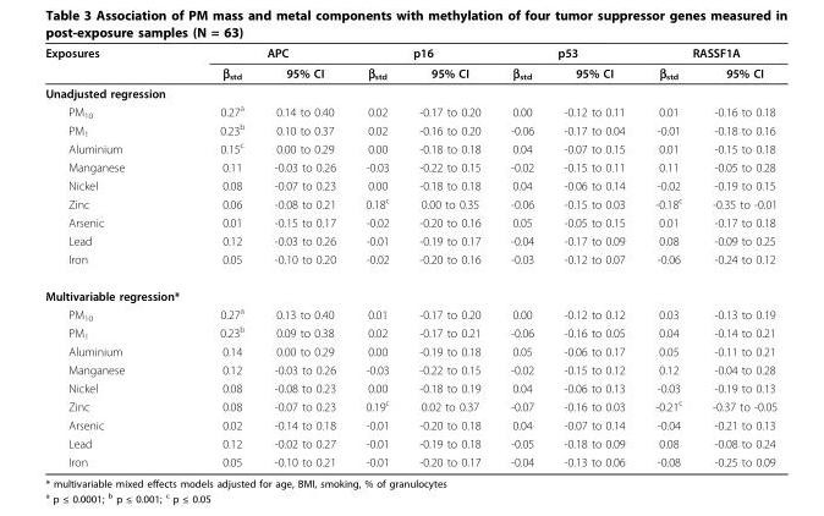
<table><thead><tr><td rowspan="2">Exposures</td><td colspan="2">APC</td><td colspan="2">p16</td><td colspan="2">p53</td><td colspan="2">RASSF1A</td></tr><tr><td>β<sub>std</sub></td><td>95% CI</td><td>β<sub>std</sub></td><td>95% CI</td><td>β<sub>std</sub></td><td>95% CI</td><td>β<sub>std</sub></td><td>95% CI</td></tr></thead><tbody><tr><td colspan="9">Unadjusted regression</td></tr><tr><td>PM<sub>10</sub></td><td>0.27<sup>a</sup></td><td>0.14 to 0.40</td><td>0.02</td><td>-0.17 to 0.20</td><td>0.00</td><td>-0.12 to 0.11</td><td>0.01</td><td>-0.16 to 0.18</td></tr><tr><td>PM<sub>1</sub></td><td>0.23<sup>b</sup></td><td>0.10 to 0.37</td><td>0.02</td><td>-0.16 to 0.20</td><td>-0.06</td><td>-0.17 to 0.04</td><td>-0.01</td><td>-0.18 to 0.16</td></tr><tr><td>Aluminium</td><td>0.15<sup>c</sup></td><td>0.00 to 0.29</td><td>0.00</td><td>-0.18 to 0.18</td><td>0.04</td><td>-0.07 to 0.15</td><td>0.01</td><td>-0.15 to 0.18</td></tr><tr><td>Manganese</td><td>0.11</td><td>-0.03 to 0.26</td><td>-0.03</td><td>-0.22 to 0.15</td><td>-0.02</td><td>-0.15 to 0.11</td><td>0.11</td><td>-0.05 to 0.28</td></tr><tr><td>Nickel</td><td>0.08</td><td>-0.07 to 0.23</td><td>0.00</td><td>-0.18 to 0.18</td><td>0.04</td><td>-0.06 to 0.14</td><td>-0.02</td><td>-0.19 to 0.15</td></tr><tr><td>Zinc</td><td>0.06</td><td>-0.08 to 0.21</td><td>0.18<sup>c</sup></td><td>0.00 to 0.35</td><td>-0.06</td><td>-0.15 to 0.03</td><td>-0.18<sup>c</sup></td><td>-0.35 to -0.01</td></tr><tr><td>Arsenic</td><td>0.01</td><td>-0.15 to 0.17</td><td>-0.02</td><td>-0.20 to 0.16</td><td>0.05</td><td>-0.05 to 0.15</td><td>0.01</td><td>-0.17 to 0.18</td></tr><tr><td>Lead</td><td>0.12</td><td>-0.03 to 0.26</td><td>-0.01</td><td>-0.19 to 0.17</td><td>-0.04</td><td>-0.17 to 0.09</td><td>0.08</td><td>-0.09 to 0.25</td></tr><tr><td>Iron</td><td>0.05</td><td>-0.10 to 0.20</td><td>-0.02</td><td>-0.20 to 0.16</td><td>-0.03</td><td>-0.12 to 0.07</td><td>-0.06</td><td>-0.24 to 0.12</td></tr><tr><td colspan="9">Multivariable regression*</td></tr><tr><td>PM<sub>10</sub></td><td>0.27<sup>a</sup></td><td>0.13 to 0.40</td><td>0.01</td><td>-0.17 to 0.20</td><td>0.00</td><td>-0.12 to 0.12</td><td>0.03</td><td>-0.13 to 0.19</td></tr><tr><td>PM<sub>1</sub></td><td>0.23<sup>b</sup></td><td>0.09 to 0.38</td><td>0.02</td><td>-0.17 to 0.21</td><td>-0.06</td><td>-0.16 to 0.05</td><td>0.04</td><td>-0.14 to 0.21</td></tr><tr><td>Aluminium</td><td>0.14</td><td>0.00 to 0.29</td><td>0.00</td><td>-0.19 to 0.18</td><td>0.05</td><td>-0.06 to 0.17</td><td>0.05</td><td>-0.11 to 0.21</td></tr><tr><td>Manganese</td><td>0.12</td><td>-0.03 to 0.26</td><td>-0.03</td><td>-0.22 to 0.15</td><td>-0.02</td><td>-0.15 to 0.12</td><td>0.12</td><td>-0.04 to 0.28</td></tr><tr><td>Nickel</td><td>0.08</td><td>-0.08 to 0.23</td><td>0.00</td><td>-0.18 to 0.19</td><td>0.04</td><td>-0.06 to 0.13</td><td>-0.03</td><td>-0.19 to 0.13</td></tr><tr><td>Zinc</td><td>0.08</td><td>-0.07 to 0.23</td><td>0.19<sup>c</sup></td><td>0.02 to 0.37</td><td>-0.07</td><td>-0.16 to 0.03</td><td>-0.21<sup>c</sup></td><td>-0.37 to -0.05</td></tr><tr><td>Arsenic</td><td>0.02</td><td>-0.14 to 0.18</td><td>-0.01</td><td>-0.20 to 0.18</td><td>0.04</td><td>-0.07 to 0.14</td><td>-0.04</td><td>-0.21 to 0.13</td></tr><tr><td>Lead</td><td>0.12</td><td>-0.02 to 0.27</td><td>-0.01</td><td>-0.19 to 0.18</td><td>-0.05</td><td>-0.18 to 0.09</td><td>0.08</td><td>-0.08 to 0.24</td></tr><tr><td>Iron</td><td>0.05</td><td>-0.10 to 0.21</td><td>-0.01</td><td>-0.20 to 0.17</td><td>-0.04</td><td>-0.13 to 0.06</td><td>-0.08</td><td>-0.25 to 0.09</td></tr></tbody></table>